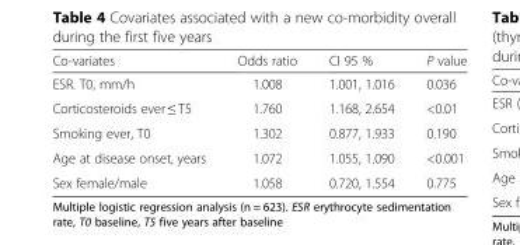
<table><thead><tr><td>Co-variates</td><td>Odds ratio</td><td>CI 95 %</td><td>P value</td></tr></thead><tbody><tr><td>ESR. T0, mm/h</td><td>1.008</td><td>1.001, 1.016</td><td>0.036</td></tr><tr><td>Corticosteroids ever ≤ T5</td><td>1.760</td><td>1.168, 2.654</td><td>&lt;0.01</td></tr><tr><td>Smoking ever, T0</td><td>1.302</td><td>0.877, 1.933</td><td>0.190</td></tr><tr><td>Age at disease onset, years</td><td>1.072</td><td>1.055, 1.090</td><td>&lt;0.001</td></tr><tr><td>Sex female/male</td><td>1.058</td><td>0.720, 1.554</td><td>0.775</td></tr></tbody></table>